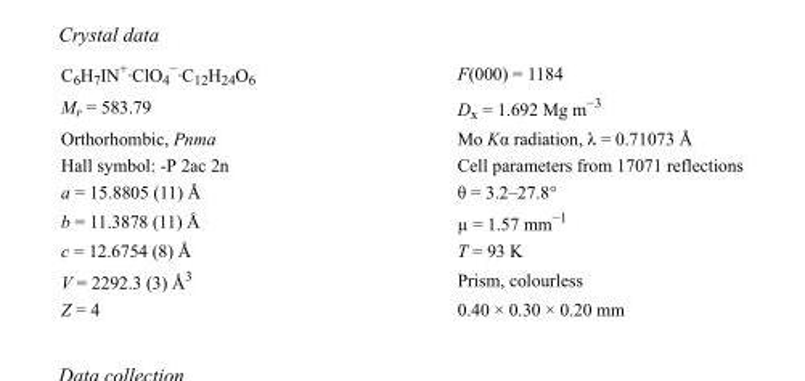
<table><tbody><tr><td>C<sub>6</sub>H<sub>7</sub>IN<sup>+</sup>·ClO<sub>4</sub> <sup>−</sup>·C<sub>12</sub>H<sub>24</sub>O<sub>6</sub></td><td>F(000) = 1184</td></tr><tr><td>M<sub>r</sub> = 583.79</td><td>D<sub>x</sub> = 1.692 Mg m<sup>−3</sup></td></tr><tr><td>Orthorhombic, Pnma</td><td>Mo Kα radiation, λ = 0.71073 Å</td></tr><tr><td>Hall symbol: -P 2ac 2n</td><td>Cell parameters from 17071 reflections</td></tr><tr><td>a = 15.8805 (11) Å</td><td>θ = 3.2–27.8°</td></tr><tr><td>b = 11.3878 (11) Å</td><td>µ = 1.57 mm<sup>−1</sup></td></tr><tr><td>c = 12.6754 (8) Å</td><td>T = 93 K</td></tr><tr><td>V = 2292.3 (3) Å<sup>3</sup></td><td>Prism, colourless</td></tr><tr><td>Z = 4</td><td>0.40 × 0.30 × 0.20 mm</td></tr></tbody></table>